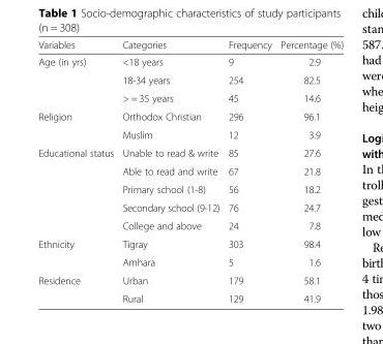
<table><thead><tr><td>Variables</td><td>Categories</td><td>Frequency</td><td>Percentage (%)</td></tr></thead><tbody><tr><td rowspan="3">Age (in yrs)</td><td>&lt;18 years</td><td>9</td><td>2.9</td></tr><tr><td>18-34 years</td><td>254</td><td>82.5</td></tr><tr><td>&gt; = 35 years</td><td>45</td><td>14.6</td></tr><tr><td rowspan="2">Religion</td><td>Orthodox Christian</td><td>296</td><td>96.1</td></tr><tr><td>Muslim</td><td>12</td><td>3.9</td></tr><tr><td rowspan="5">Educational status</td><td>Unable to read &amp; write</td><td>85</td><td>27.6</td></tr><tr><td>Able to read and write</td><td>67</td><td>21.8</td></tr><tr><td>Primary school (1-8)</td><td>56</td><td>18.2</td></tr><tr><td>Secondary school (9-12)</td><td>76</td><td>24.7</td></tr><tr><td>College and above</td><td>24</td><td>7.8</td></tr><tr><td rowspan="2">Ethnicity</td><td>Tigray</td><td>303</td><td>98.4</td></tr><tr><td>Amhara</td><td>5</td><td>1.6</td></tr><tr><td rowspan="2">Residence</td><td>Urban</td><td>179</td><td>58.1</td></tr><tr><td>Rural</td><td>129</td><td>41.9</td></tr></tbody></table>